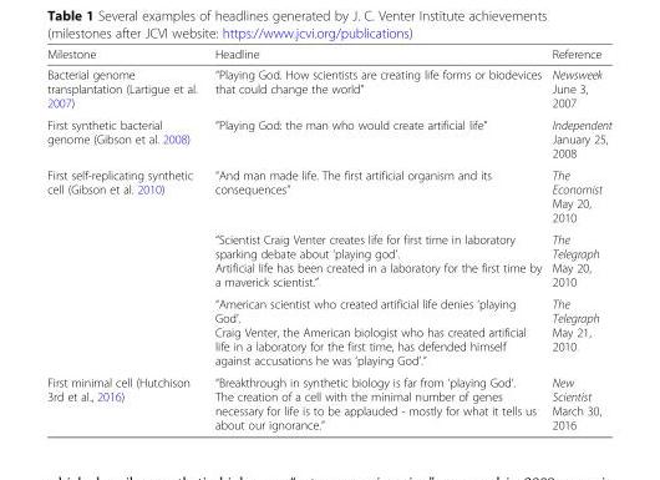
<table><thead><tr><td>Milestone</td><td>Headline</td><td>Reference</td></tr></thead><tbody><tr><td>Bacterial genome transplantation (Lartigue et al. 2007)</td><td>“Playing God. How scientists are creating life forms or biodevices that could change the world”</td><td>Newsweek June 3, 2007</td></tr><tr><td>First synthetic bacterial genome (Gibson et al. 2008)</td><td>“Playing God: the man who would create artificial life”</td><td>Independent January 25, 2008</td></tr><tr><td rowspan="3">First self-replicating synthetic cell (Gibson et al. 2010)</td><td>“And man made life. The first artificial organism and its consequences”</td><td>The Economist May 20, 2010</td></tr><tr><td>“Scientist Craig Venter creates life for first time in laboratory sparking debate about ‘playing god’. Artificial life has been created in a laboratory for the first time by a maverick scientist.”</td><td>The Telegraph May 20, 2010</td></tr><tr><td>“American scientist who created artificial life denies ‘playing God’. Craig Venter, the American biologist who has created artificial life in a laboratory for the first time, has defended himself against accusations he was ‘playing God’.”</td><td>The Telegraph May 21, 2010</td></tr><tr><td>First minimal cell (Hutchison 3rd et al., 2016)</td><td>“Breakthrough in synthetic biology is far from ‘playing God’. The creation of a cell with the minimal number of genes necessary for life is to be applauded - mostly for what it tells us about our ignorance.”</td><td>New Scientist March 30, 2016</td></tr></tbody></table>